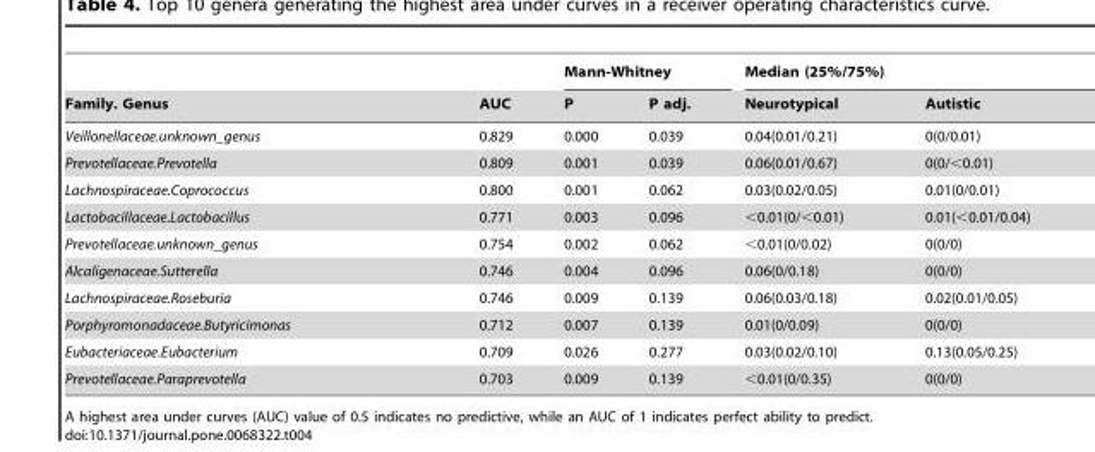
<table><thead><tr><td rowspan="2">Family. Genus</td><td rowspan="2">AUC</td><td colspan="2">Mann-Whitney</td><td colspan="2">Median (25%/75%)</td></tr><tr><td>P</td><td>P adj.</td><td>Neurotypical</td><td>Autistic</td></tr></thead><tbody><tr><td>Veillonellaceae.unknown_genus</td><td>0.829</td><td>0.000</td><td>0.039</td><td>0.04(0.01/0.21)</td><td>0(0/0.01)</td></tr><tr><td>Prevotellaceae.Prevotella</td><td>0.809</td><td>0.001</td><td>0.039</td><td>0.06(0.01/0.67)</td><td>0(0/&lt;0.01)</td></tr><tr><td>Lachnospiraceae.Coprococcus</td><td>0.800</td><td>0.001</td><td>0.062</td><td>0.03(0.02/0.05)</td><td>0.01(0/0.01)</td></tr><tr><td>Lactobacillaceae.Lactobacillus</td><td>0.771</td><td>0.003</td><td>0.096</td><td>&lt;0.01(0/&lt;0.01)</td><td>0.01(&lt;0.01/0.04)</td></tr><tr><td>Prevotellaceae.unknown_genus</td><td>0.754</td><td>0.002</td><td>0.062</td><td>&lt;0.01(0/0.02)</td><td>0(0/0)</td></tr><tr><td>Alcaligenaceae.Sutterella</td><td>0.746</td><td>0.004</td><td>0.096</td><td>0.06(0/0.18)</td><td>0(0/0)</td></tr><tr><td>Lachnospiraceae.Roseburia</td><td>0.746</td><td>0.009</td><td>0.139</td><td>0.06(0.03/0.18)</td><td>0.02(0.01/0.05)</td></tr><tr><td>Porphyromonadaceae.Butyricimonas</td><td>0.712</td><td>0.007</td><td>0.139</td><td>0.01(0/0.09)</td><td>0(0/0)</td></tr><tr><td>Eubacteriaceae.Eubacterium</td><td>0.709</td><td>0.026</td><td>0.277</td><td>0.03(0.02/0.10)</td><td>0.13(0.05/0.25)</td></tr><tr><td>Prevotellaceae.Paraprevotella</td><td>0.703</td><td>0.009</td><td>0.139</td><td>&lt;0.01(0/0.35)</td><td>0(0/0)</td></tr></tbody></table>